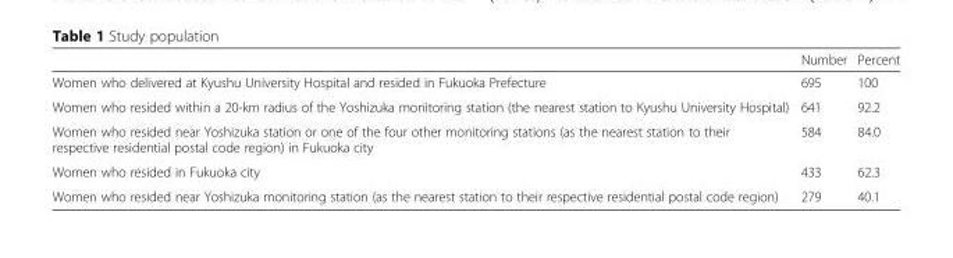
<table><thead><tr><td></td><td>Number</td><td>Percent</td></tr></thead><tbody><tr><td>Women who delivered at Kyushu University Hospital and resided in Fukuoka Prefecture</td><td>695</td><td>100</td></tr><tr><td>Women who resided within a 20-km radius of the Yoshizuka monitoring station (the nearest station to Kyushu University Hospital)</td><td>641</td><td>92.2</td></tr><tr><td>Women who resided near Yoshizuka station or one of the four other monitoring stations (as the nearest station to their respective residential postal code region) in Fukuoka city</td><td>584</td><td>84.0</td></tr><tr><td>Women who resided in Fukuoka city</td><td>433</td><td>62.3</td></tr><tr><td>Women who resided near Yoshizuka monitoring station (as the nearest station to their respective residential postal code region)</td><td>279</td><td>40.1</td></tr></tbody></table>